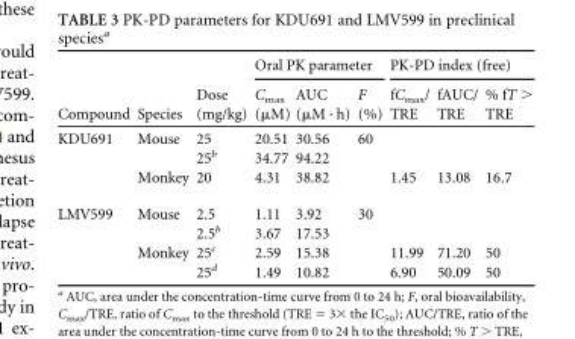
<table><thead><tr><td rowspan="2">Compound</td><td rowspan="2">Species</td><td rowspan="2">Dose (mg/kg)</td><td colspan="3">Oral PK parameter</td><td colspan="3">PK-PD index (free)</td></tr><tr><td>C<sub>max</sub> (μM)</td><td>AUC (μM · h)</td><td>F (%)</td><td>fC<sub>max</sub>/ TRE</td><td>fAUC/ TRE</td><td>% fT TRE</td></tr></thead><tbody><tr><td rowspan="3">KDU691</td><td>Mouse</td><td>25</td><td>20.51</td><td>30.56</td><td>60</td><td></td><td></td><td></td></tr><tr><td></td><td>25<sup>b</sup></td><td>34.77</td><td>94.22</td><td></td><td></td><td></td><td></td></tr><tr><td>Monkey</td><td>20</td><td>4.31</td><td>38.82</td><td></td><td>1.45</td><td>13.08</td><td>16.7</td></tr><tr><td rowspan="4">LMV599</td><td>Mouse</td><td>2.5</td><td>1.11</td><td>3.92</td><td>30</td><td></td><td></td><td></td></tr><tr><td></td><td>2.5<sup>b</sup></td><td>3.67</td><td>17.53</td><td></td><td></td><td></td><td></td></tr><tr><td>Monkey</td><td>25<sup>c</sup></td><td>2.59</td><td>15.38</td><td></td><td>11.99</td><td>71.20</td><td>50</td></tr><tr><td></td><td>25<sup>d</sup></td><td>1.49</td><td>10.82</td><td></td><td>6.90</td><td>50.09</td><td>50</td></tr></tbody></table>